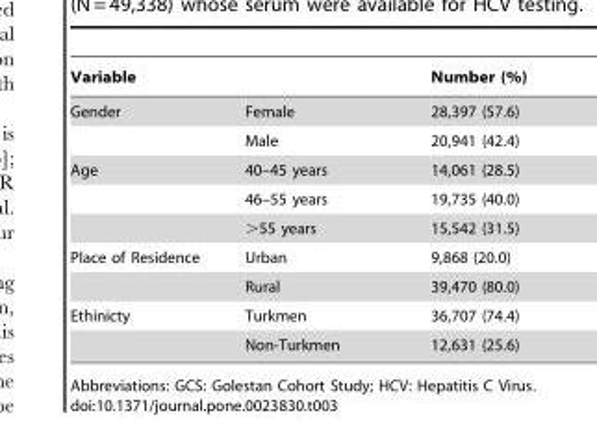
<table><thead><tr><td>Variable</td><td></td><td>Number (%)</td></tr></thead><tbody><tr><td rowspan="2">Gender</td><td>Female</td><td>28,397 (57.6)</td></tr><tr><td>Male</td><td>20,941 (42.4)</td></tr><tr><td rowspan="3">Age</td><td>40–45 years</td><td>14,061 (28.5)</td></tr><tr><td>46–55 years</td><td>19,735 (40.0)</td></tr><tr><td>&gt;55 years</td><td>15,542 (31.5)</td></tr><tr><td rowspan="2">Place of Residence</td><td>Urban</td><td>9,868 (20.0)</td></tr><tr><td>Rural</td><td>39,470 (80.0)</td></tr><tr><td rowspan="2">Ethinicty</td><td>Turkmen</td><td>36,707 (74.4)</td></tr><tr><td>Non-Turkmen</td><td>12,631 (25.6)</td></tr></tbody></table>